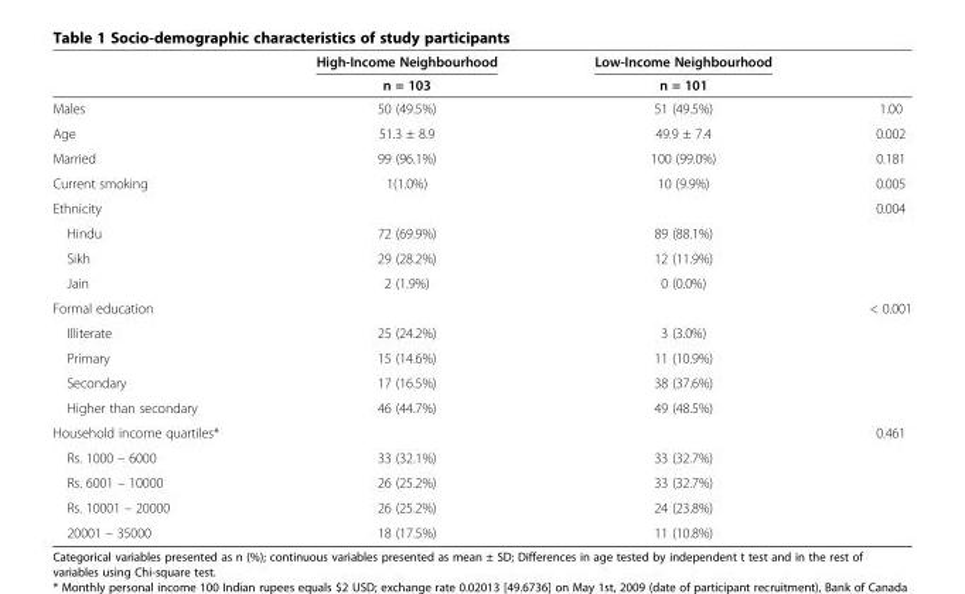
<table><thead><tr><td rowspan="2"></td><td rowspan="2">High-Income Neighbourhood n = 103</td><td rowspan="2">Low-Income Neighbourhood n = 101</td><td rowspan="2"></td></tr><tr></tr></thead><tbody><tr><td>Males</td><td>50 (49.5%)</td><td>51 (49.5%)</td><td>1.00</td></tr><tr><td>Age</td><td>51.3 ± 8.9</td><td>49.9 ± 7.4</td><td>0.002</td></tr><tr><td>Married</td><td>99 (96.1%)</td><td>100 (99.0%)</td><td>0.181</td></tr><tr><td>Current smoking</td><td>1(1.0%)</td><td>10 (9.9%)</td><td>0.005</td></tr><tr><td>Ethnicity</td><td></td><td></td><td>0.004</td></tr><tr><td>Hindu</td><td>72 (69.9%)</td><td>89 (88.1%)</td><td></td></tr><tr><td>Sikh</td><td>29 (28.2%)</td><td>12 (11.9%)</td><td></td></tr><tr><td>Jain</td><td>2 (1.9%)</td><td>0 (0.0%)</td><td></td></tr><tr><td>Formal education</td><td></td><td></td><td>&lt; 0.001</td></tr><tr><td>Illiterate</td><td>25 (24.2%)</td><td>3 (3.0%)</td><td></td></tr><tr><td>Primary</td><td>15 (14.6%)</td><td>11 (10.9%)</td><td></td></tr><tr><td>Secondary</td><td>17 (16.5%)</td><td>38 (37.6%)</td><td></td></tr><tr><td>Higher than secondary</td><td>46 (44.7%)</td><td>49 (48.5%)</td><td></td></tr><tr><td>Household income quartiles*</td><td></td><td></td><td>0.461</td></tr><tr><td>Rs. 1000 – 6000</td><td>33 (32.1%)</td><td>33 (32.7%)</td><td></td></tr><tr><td>Rs. 6001 – 10000</td><td>26 (25.2%)</td><td>33 (32.7%)</td><td></td></tr><tr><td>Rs. 10001 – 20000</td><td>26 (25.2%)</td><td>24 (23.8%)</td><td></td></tr><tr><td>20001 – 35000</td><td>18 (17.5%)</td><td>11 (10.8%)</td><td></td></tr></tbody></table>